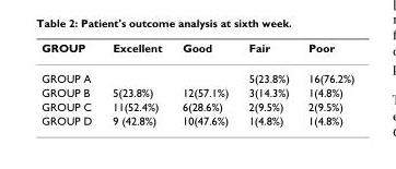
<table><thead><tr><td>GROUP</td><td>Excellent</td><td>Good</td><td>Fair</td><td>Poor</td></tr></thead><tbody><tr><td>GROUP A</td><td></td><td></td><td>5(23.8%)</td><td>16(76.2%)</td></tr><tr><td>GROUP B</td><td>5(23.8%)</td><td>12(57.1%)</td><td>3(14.3%)</td><td>1(4.8%)</td></tr><tr><td>GROUP C</td><td>11(52.4%)</td><td>6(28.6%)</td><td>2(9.5%)</td><td>2(9.5%)</td></tr><tr><td>GROUP D</td><td>9 (42.8%)</td><td>10(47.6%)</td><td>1(4.8%)</td><td>1(4.8%)</td></tr></tbody></table>